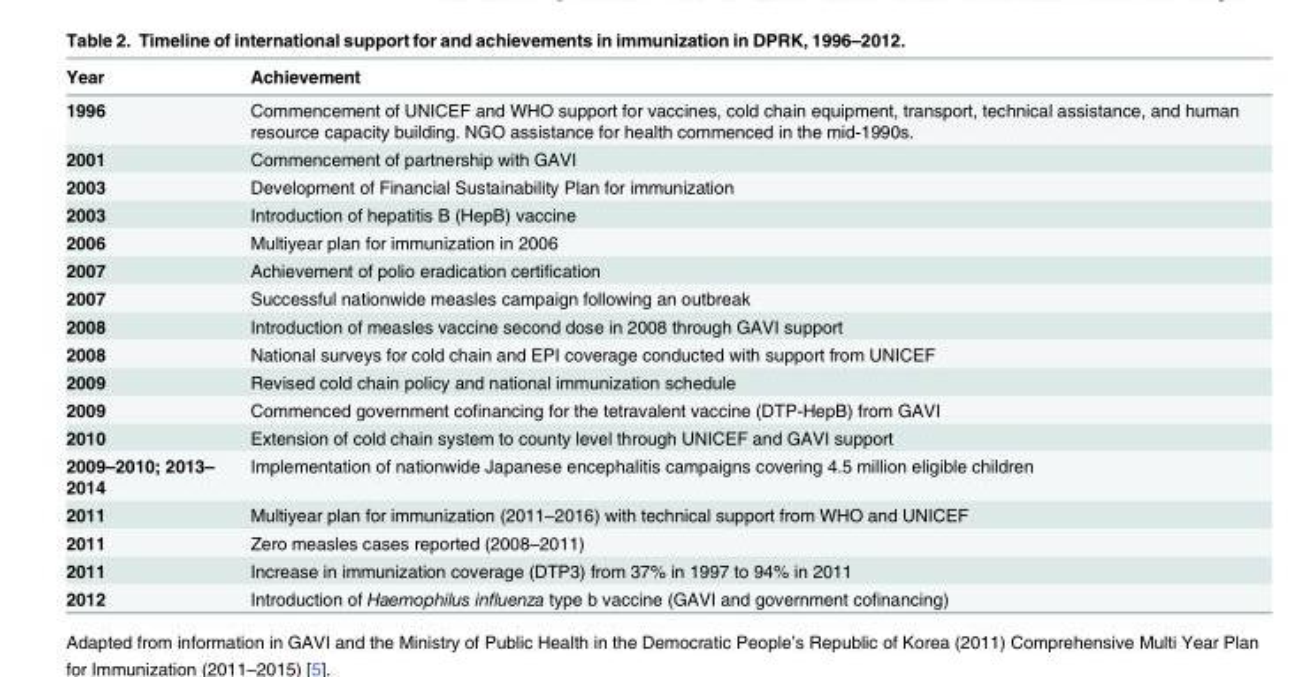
<table><thead><tr><td>Year</td><td>Achievement</td></tr></thead><tbody><tr><td>1996</td><td>Commencement of UNICEF and WHO support for vaccines, cold chain equipment, transport, technical assistance, and human resource capacity building. NGO assistance for health commenced in the mid-1990s.</td></tr><tr><td>2001</td><td>Commencement of partnership with GAVI</td></tr><tr><td>2003</td><td>Development of Financial Sustainability Plan for immunization</td></tr><tr><td>2003</td><td>Introduction of hepatitis B (HepB) vaccine</td></tr><tr><td>2006</td><td>Multiyear plan for immunization in 2006</td></tr><tr><td>2007</td><td>Achievement of polio eradication certification</td></tr><tr><td>2007</td><td>Successful nationwide measles campaign following an outbreak</td></tr><tr><td>2008</td><td>Introduction of measles vaccine second dose in 2008 through GAVI support</td></tr><tr><td>2008</td><td>National surveys for cold chain and EPI coverage conducted with support from UNICEF</td></tr><tr><td>2009</td><td>Revised cold chain policy and national immunization schedule</td></tr><tr><td>2009</td><td>Commenced government cofinancing for the tetravalent vaccine (DTP-HepB) from GAVI</td></tr><tr><td>2010</td><td>Extension of cold chain system to county level through UNICEF and GAVI support</td></tr><tr><td>2009–2010; 2013– 2014</td><td>Implementation of nationwide Japanese encephalitis campaigns covering 4.5 million eligible children</td></tr><tr><td>2011</td><td>Multiyear plan for immunization (2011–2016) with technical support from WHO and UNICEF</td></tr><tr><td>2011</td><td>Zero measles cases reported (2008–2011)</td></tr><tr><td>2011</td><td>Increase in immunization coverage (DTP3) from 37% in 1997 to 94% in 2011</td></tr><tr><td>2012</td><td>Introduction of Haemophilus influenza type b vaccine (GAVI and government cofinancing)</td></tr></tbody></table>